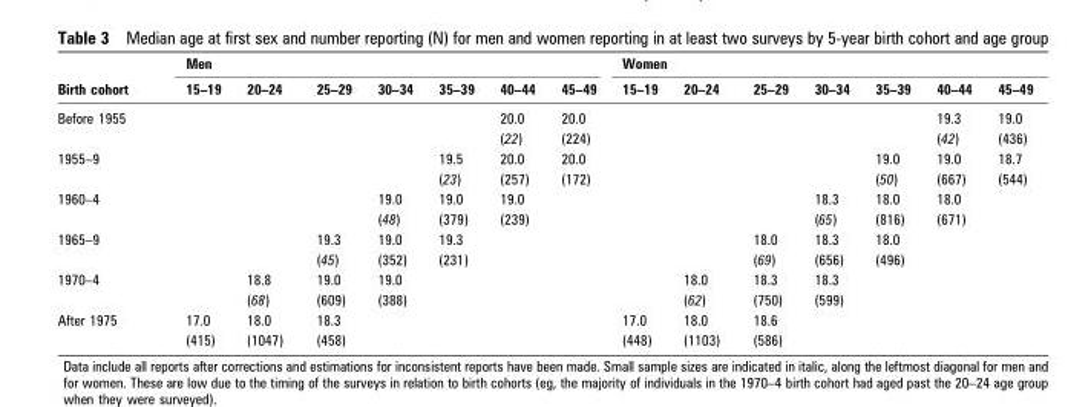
<table><thead><tr><td rowspan="2">Birth cohort</td><td colspan="7">Men</td><td colspan="7">Women</td></tr><tr><td>15–19</td><td>20–24</td><td>25–29</td><td>30–34</td><td>35–39</td><td>40–44</td><td>45–49</td><td>15–19</td><td>20–24</td><td>25–29</td><td>30–34</td><td>35–39</td><td>40–44</td><td>45–49</td></tr></thead><tbody><tr><td rowspan="2">Before 1955</td><td></td><td></td><td></td><td></td><td></td><td>20.0</td><td>20.0</td><td></td><td></td><td></td><td></td><td></td><td>19.3</td><td>19.0</td></tr><tr><td></td><td></td><td></td><td></td><td></td><td>(22)</td><td>(224)</td><td></td><td></td><td></td><td></td><td></td><td>(42)</td><td>(436)</td></tr><tr><td rowspan="2">1955–9</td><td></td><td></td><td></td><td></td><td>19.5</td><td>20.0</td><td>20.0</td><td></td><td></td><td></td><td></td><td>19.0</td><td>19.0</td><td>18.7</td></tr><tr><td></td><td></td><td></td><td></td><td>(23)</td><td>(257)</td><td>(172)</td><td></td><td></td><td></td><td></td><td>(50)</td><td>(667)</td><td>(544)</td></tr><tr><td rowspan="2">1960–4</td><td></td><td></td><td></td><td>19.0</td><td>19.0</td><td>19.0</td><td></td><td></td><td></td><td></td><td>18.3</td><td>18.0</td><td>18.0</td><td></td></tr><tr><td></td><td></td><td></td><td>(48)</td><td>(379)</td><td>(239)</td><td></td><td></td><td></td><td></td><td>(65)</td><td>(816)</td><td>(671)</td><td></td></tr><tr><td rowspan="2">1965–9</td><td></td><td></td><td>19.3</td><td>19.0</td><td>19.3</td><td></td><td></td><td></td><td></td><td>18.0</td><td>18.3</td><td>18.0</td><td></td><td></td></tr><tr><td></td><td></td><td>(45)</td><td>(352)</td><td>(231)</td><td></td><td></td><td></td><td></td><td>(69)</td><td>(656)</td><td>(496)</td><td></td><td></td></tr><tr><td rowspan="2">1970–4</td><td></td><td>18.8</td><td>19.0</td><td>19.0</td><td></td><td></td><td></td><td></td><td>18.0</td><td>18.3</td><td>18.3</td><td></td><td></td><td></td></tr><tr><td></td><td>(68)</td><td>(609)</td><td>(388)</td><td></td><td></td><td></td><td></td><td>(62)</td><td>(750)</td><td>(599)</td><td></td><td></td><td></td></tr><tr><td rowspan="2">After 1975</td><td>17.0</td><td>18.0</td><td>18.3</td><td></td><td></td><td></td><td></td><td>17.0</td><td>18.0</td><td>18.6</td><td></td><td></td><td></td><td></td></tr><tr><td>(415)</td><td>(1047)</td><td>(458)</td><td></td><td></td><td></td><td></td><td>(448)</td><td>(1103)</td><td>(586)</td><td></td><td></td><td></td><td></td></tr></tbody></table>